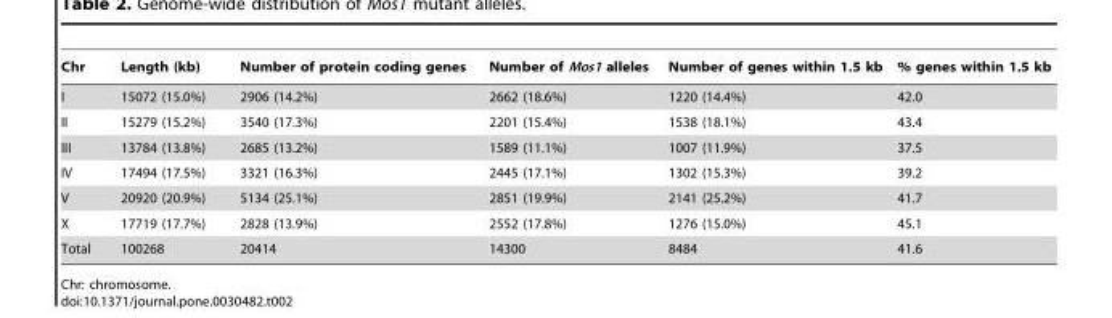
<table><thead><tr><td>Chr</td><td>Length (kb)</td><td>Number of protein coding genes</td><td>Number of Mos1 alleles</td><td>Number of genes within 1.5 kb</td><td>% genes within 1.5 kb</td></tr></thead><tbody><tr><td>I</td><td>15072 (15.0%)</td><td>2906 (14.2%)</td><td>2662 (18.6%)</td><td>1220 (14.4%)</td><td>42.0</td></tr><tr><td>II</td><td>15279 (15.2%)</td><td>3540 (17.3%)</td><td>2201 (15.4%)</td><td>1538 (18.1%)</td><td>43.4</td></tr><tr><td>III</td><td>13784 (13.8%)</td><td>2685 (13.2%)</td><td>1589 (11.1%)</td><td>1007 (11.9%)</td><td>37.5</td></tr><tr><td>IV</td><td>17494 (17.5%)</td><td>3321 (16.3%)</td><td>2445 (17.1%)</td><td>1302 (15.3%)</td><td>39.2</td></tr><tr><td>V</td><td>20920 (20.9%)</td><td>5134 (25.1%)</td><td>2851 (19.9%)</td><td>2141 (25.2%)</td><td>41.7</td></tr><tr><td>X</td><td>17719 (17.7%)</td><td>2828 (13.9%)</td><td>2552 (17.8%)</td><td>1276 (15.0%)</td><td>45.1</td></tr><tr><td>Total</td><td>100268</td><td>20414</td><td>14300</td><td>8484</td><td>41.6</td></tr></tbody></table>